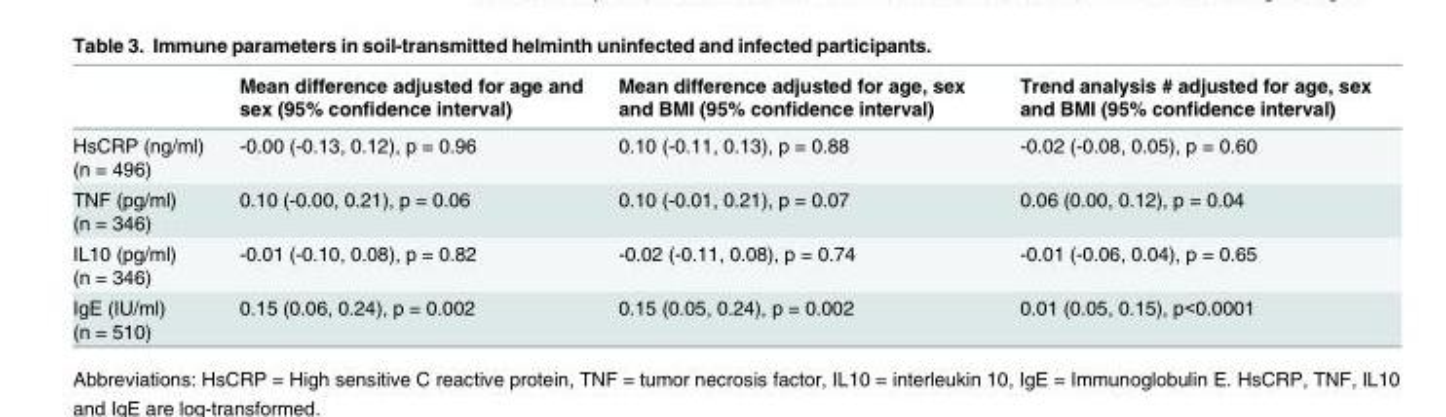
<table><thead><tr><td></td><td>Mean difference adjusted for age and sex (95% confidence interval)</td><td>Mean difference adjusted for age, sex and BMI (95% confidence interval)</td><td>Trend analysis # adjusted for age, sex and BMI (95% confidence interval)</td></tr></thead><tbody><tr><td>HsCRP (ng/ml) (n = 496)</td><td>-0.00 (-0.13, 0.12), p = 0.96</td><td>0.10 (-0.11, 0.13), p = 0.88</td><td>-0.02 (-0.08, 0.05), p = 0.60</td></tr><tr><td>TNF (pg/ml) (n = 346)</td><td>0.10 (-0.00, 0.21), p = 0.06</td><td>0.10 (-0.01, 0.21), p = 0.07</td><td>0.06 (0.00, 0.12), p = 0.04</td></tr><tr><td>IL10 (pg/ml) (n = 346)</td><td>-0.01 (-0.10, 0.08), p = 0.82</td><td>-0.02 (-0.11, 0.08), p = 0.74</td><td>-0.01 (-0.06, 0.04), p = 0.65</td></tr><tr><td>IgE (IU/ml) (n = 510)</td><td>0.15 (0.06, 0.24), p = 0.002</td><td>0.15 (0.05, 0.24), p = 0.002</td><td>0.01 (0.05, 0.15), p&lt;0.0001</td></tr></tbody></table>